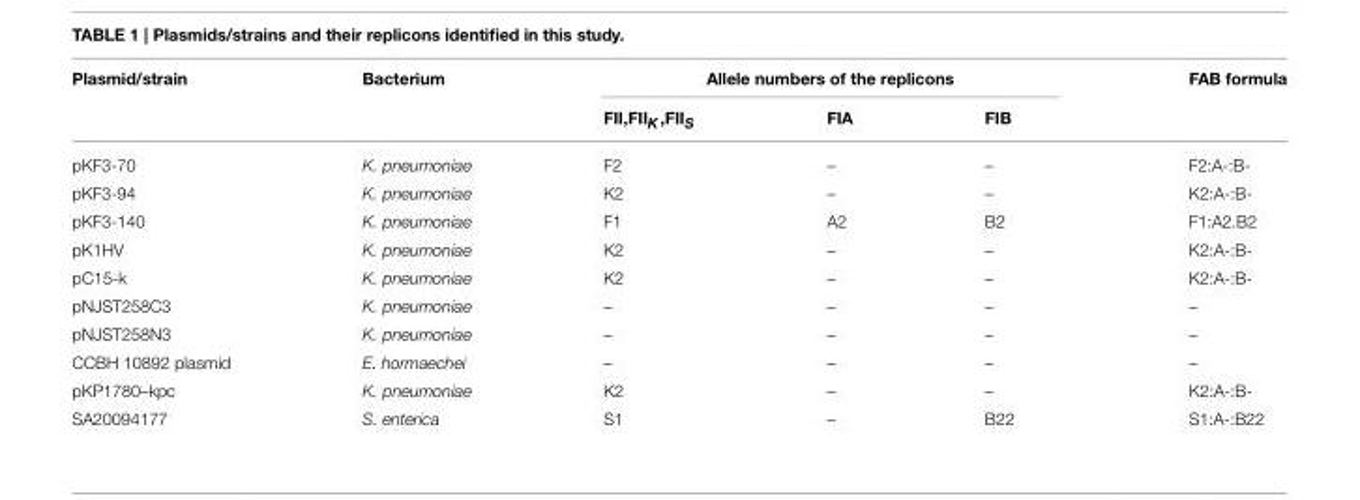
<table><thead><tr><td rowspan="2">Plasmid/strain</td><td rowspan="2">Bacterium</td><td colspan="3">Allele numbers of the replicons</td><td rowspan="2">FAB formula</td></tr><tr><td>FII,FII<sub>K</sub>,FII<sub>S</sub></td><td>FIA</td><td>FIB</td></tr></thead><tbody><tr><td>pKF3-70</td><td>K. pneumoniae</td><td>F2</td><td>–</td><td>–</td><td>F2:A-:B-</td></tr><tr><td>pKF3-94</td><td>K. pneumoniae</td><td>K2</td><td>–</td><td>–</td><td>K2:A-:B-</td></tr><tr><td>pKF3-140</td><td>K. pneumoniae</td><td>F1</td><td>A2</td><td>B2</td><td>F1:A2.B2</td></tr><tr><td>pK1HV</td><td>K. pneumoniae</td><td>K2</td><td>–</td><td>–</td><td>K2:A-:B-</td></tr><tr><td>pC15-k</td><td>K. pneumoniae</td><td>K2</td><td>–</td><td>–</td><td>K2:A-:B-</td></tr><tr><td>pNJST258C3</td><td>K. pneumoniae</td><td>–</td><td>–</td><td>–</td><td>–</td></tr><tr><td>pNJST258N3</td><td>K. pneumoniae</td><td>–</td><td>–</td><td>–</td><td>–</td></tr><tr><td>CCBH 10892 plasmid</td><td>E. hormaechei</td><td>–</td><td>–</td><td>–</td><td>–</td></tr><tr><td>pKP1780–kpc</td><td>K. pneumoniae</td><td>K2</td><td>–</td><td>–</td><td>K2:A-:B-</td></tr><tr><td>SA20094177</td><td>S. enterica</td><td>S1</td><td>–</td><td>B22</td><td>S1:A-:B22</td></tr></tbody></table>